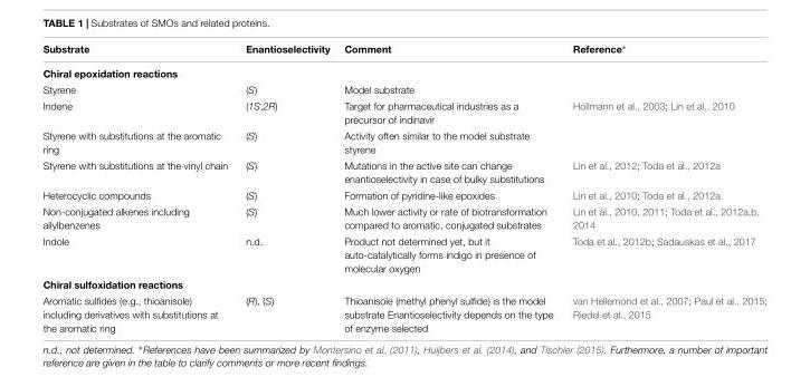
<table><thead><tr><td>Substrate</td><td>Enantioselectivity</td><td>Comment</td><td>Reference∗</td></tr></thead><tbody><tr><td colspan="4">Chiral epoxidation reactions</td></tr><tr><td>Styrene</td><td>(S)</td><td>Model substrate</td><td></td></tr><tr><td>Indene</td><td>(1S,2R)</td><td>Target for pharmaceutical industries as a precursor of indinavir</td><td>Hollmann et al., 2003; Lin et al., 2010</td></tr><tr><td>Styrene with substitutions at the aromatic ring</td><td>(S)</td><td>Activity often similar to the model substrate styrene</td><td></td></tr><tr><td>Styrene with substitutions at the vinyl chain</td><td>(S)</td><td>Mutations in the active site can change enantioselectivity in case of bulky substitutions</td><td>Lin et al., 2012; Toda et al., 2012a</td></tr><tr><td>Heterocyclic compounds</td><td>(S)</td><td>Formation of pyridine-like epoxides</td><td>Lin et al., 2010; Toda et al., 2012a</td></tr><tr><td>Non-conjugated alkenes including allylbenzenes</td><td>(S)</td><td>Much lower activity or rate of biotransformation compared to aromatic, conjugated substrates</td><td>Lin et al., 2010, 2011; Toda et al., 2012a,b, 2014</td></tr><tr><td>Indole</td><td>n.d.</td><td>Product not determined yet, but it auto-catalytically forms indigo in presence of molecular oxygen</td><td>Toda et al., 2012b; Sadauskas et al., 2017</td></tr><tr><td colspan="4">Chiral sulfoxidation reactions</td></tr><tr><td>Aromatic sulfides (e.g., thioanisole) including derivatives with substitutions at the aromatic ring</td><td>(R), (S)</td><td>Thioanisole (methyl phenyl sulfide) is the model substrate Enantioselectivity depends on the type of enzyme selected</td><td>van Hellemond et al., 2007; Paul et al., 2015; Riedel et al., 2015</td></tr></tbody></table>